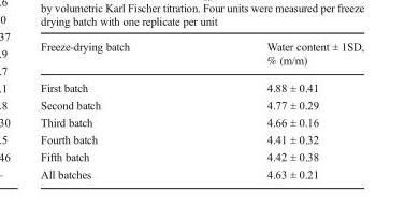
<table><thead><tr><td>Freeze-drying batch</td><td>Water content ± 1SD, % (m/m)</td></tr></thead><tbody><tr><td>First batch</td><td>4.88 ± 0.41</td></tr><tr><td>Second batch</td><td>4.77 ± 0.29</td></tr><tr><td>Third batch</td><td>4.66 ± 0.16</td></tr><tr><td>Fourth batch</td><td>4.41 ± 0.32</td></tr><tr><td>Fifth batch</td><td>4.42 ± 0.38</td></tr><tr><td>All batches</td><td>4.63 ± 0.21</td></tr></tbody></table>